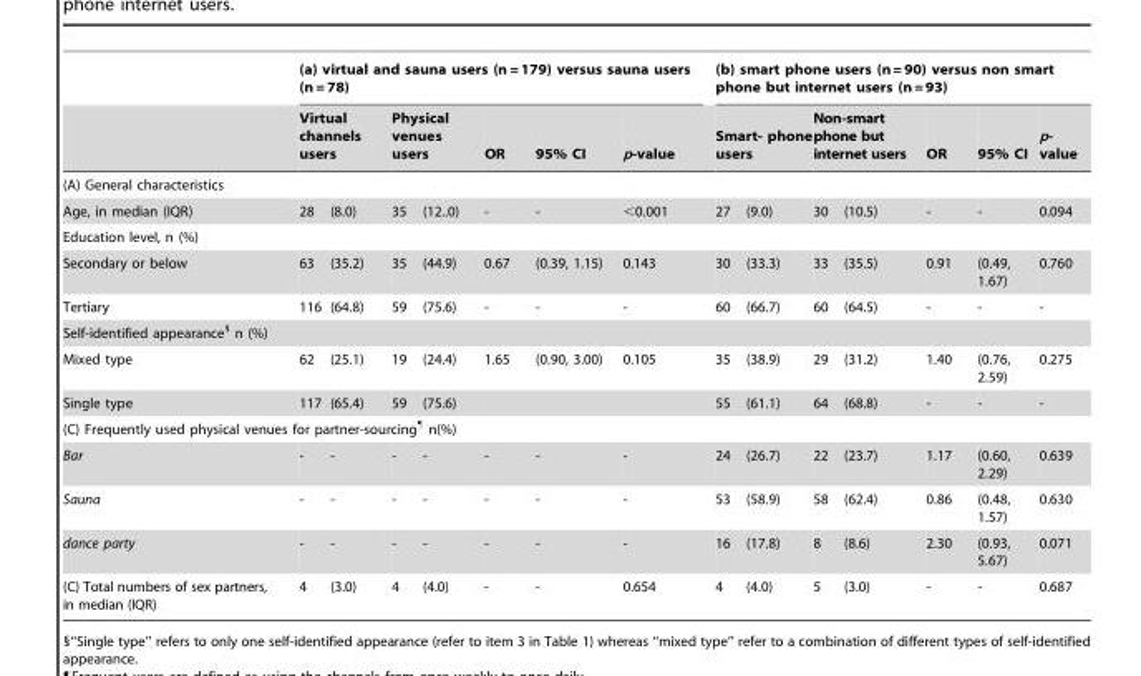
<table><thead><tr><td rowspan="2"></td><td colspan="7">(a) virtual and sauna users (n = 179) versus sauna users (n = 78)</td><td colspan="7">(b) smart phone users (n = 90) versus non smart phone but internet users (n = 93)</td></tr><tr><td colspan="2">Virtual channels users</td><td colspan="2">Physical venues users</td><td>OR</td><td>95% CI</td><td>p-value</td><td colspan="2">Smart- phone users</td><td colspan="2">Non-smart phone but internet users</td><td>OR</td><td>95% CI</td><td>p- value</td></tr><tr><td colspan="15">(A) General characteristics</td></tr><tr><td>Age, in median (IQR)</td><td>28</td><td>(8.0)</td><td>35</td><td>(12..0)</td><td>-</td><td>-</td><td>&lt;0.001</td><td>27</td><td>(9.0)</td><td>30</td><td>(10.5)</td><td>-</td><td>-</td><td>0.094</td></tr></thead><tbody><tr><td colspan="15">Education level, n (%)</td></tr><tr><td>Secondary or below</td><td>63</td><td>(35.2)</td><td>35</td><td>(44.9)</td><td>0.67</td><td>(0.39, 1.15)</td><td>0.143</td><td>30</td><td>(33.3)</td><td>33</td><td>(35.5)</td><td>0.91</td><td>(0.49, 1.67)</td><td>0.760</td></tr><tr><td>Tertiary</td><td>116</td><td>(64.8)</td><td>59</td><td>(75.6)</td><td>-</td><td>-</td><td>-</td><td>60</td><td>(66.7)</td><td>60</td><td>(64.5)</td><td>-</td><td>-</td><td>-</td></tr><tr><td colspan="15">Self-identified appearance§ n (%)</td></tr><tr><td>Mixed type</td><td>62</td><td>(25.1)</td><td>19</td><td>(24.4)</td><td>1.65</td><td>(0.90, 3.00)</td><td>0.105</td><td>35</td><td>(38.9)</td><td>29</td><td>(31.2)</td><td>1.40</td><td>(0.76, 2.59)</td><td>0.275</td></tr><tr><td>Single type</td><td>117</td><td>(65.4)</td><td>59</td><td>(75.6)</td><td></td><td></td><td></td><td>55</td><td>(61.1)</td><td>64</td><td>(68.8)</td><td>-</td><td>-</td><td>-</td></tr><tr><td colspan="15">(C) Frequently used physical venues for partner-sourcing¶ n(%)</td></tr><tr><td>Bar</td><td>-</td><td>-</td><td>-</td><td>-</td><td>-</td><td>-</td><td>-</td><td>24</td><td>(26.7)</td><td>22</td><td>(23.7)</td><td>1.17</td><td>(0.60, 2.29)</td><td>0.639</td></tr><tr><td>Sauna</td><td>-</td><td>-</td><td>-</td><td>-</td><td>-</td><td>-</td><td>-</td><td>53</td><td>(58.9)</td><td>58</td><td>(62.4)</td><td>0.86</td><td>(0.48, 1.57)</td><td>0.630</td></tr><tr><td>dance party</td><td>-</td><td>-</td><td>-</td><td>-</td><td>-</td><td>-</td><td>-</td><td>16</td><td>(17.8)</td><td>8</td><td>(8.6)</td><td>2.30</td><td>(0.93, 5.67)</td><td>0.071</td></tr><tr><td>(C) Total numbers of sex partners, in median (IQR)</td><td>4</td><td>(3.0)</td><td>4</td><td>(4.0)</td><td>-</td><td>-</td><td>0.654</td><td>4</td><td>(4.0)</td><td>5</td><td>(3.0)</td><td>-</td><td>-</td><td>0.687</td></tr></tbody></table>